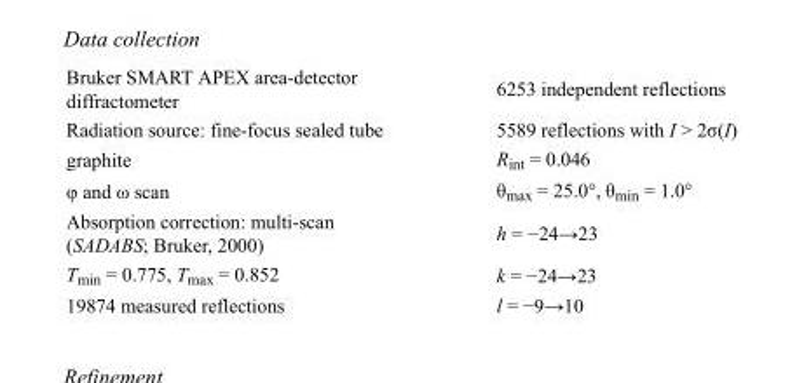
<table><tbody><tr><td>Bruker SMART APEX area-detector diffractometer</td><td>6253 independent reflections</td></tr><tr><td>Radiation source: fine-focus sealed tube</td><td>5589 reflections with I &gt; 2σ(I)</td></tr><tr><td>graphite</td><td>R<sub>int</sub> = 0.046</td></tr><tr><td>φ and ω scan</td><td>θ<sub>max</sub> = 25.0°, θ<sub>min</sub> = 1.0°</td></tr><tr><td>Absorption correction: multi-scan (SADABS; Bruker, 2000)</td><td>h = −24→23</td></tr><tr><td>T<sub>min</sub> = 0.775, T<sub>max</sub> = 0.852</td><td>k = −24→23</td></tr><tr><td>19874 measured reflections</td><td>l = −9→10</td></tr></tbody></table>